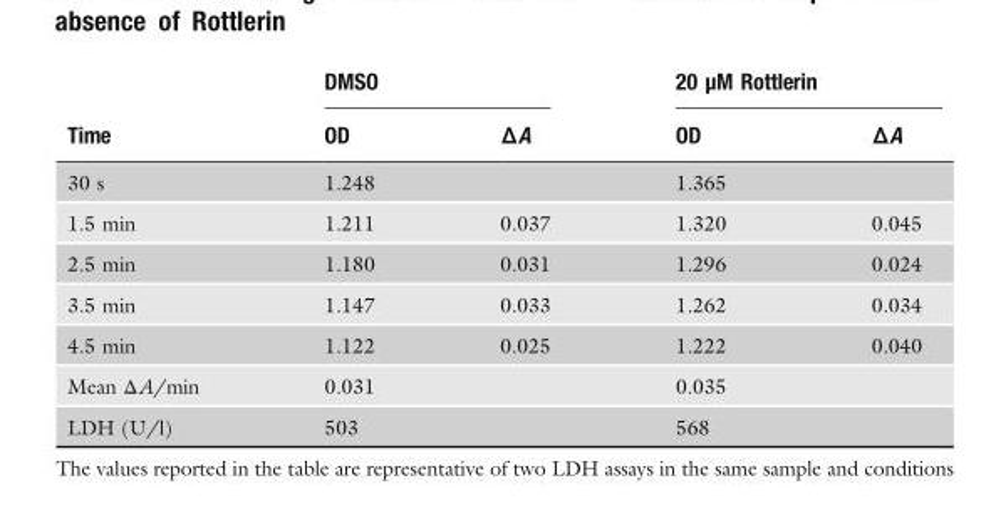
<table><thead><tr><td rowspan="2">Time</td><td colspan="2">DMSO</td><td colspan="2">20 μM Rottlerin</td></tr><tr><td>OD</td><td>ΔA</td><td>OD</td><td>ΔA</td></tr></thead><tbody><tr><td>30 s</td><td>1.248</td><td></td><td>1.365</td><td></td></tr><tr><td>1.5 min</td><td>1.211</td><td>0.037</td><td>1.320</td><td>0.045</td></tr><tr><td>2.5 min</td><td>1.180</td><td>0.031</td><td>1.296</td><td>0.024</td></tr><tr><td>3.5 min</td><td>1.147</td><td>0.033</td><td>1.262</td><td>0.034</td></tr><tr><td>4.5 min</td><td>1.122</td><td>0.025</td><td>1.222</td><td>0.040</td></tr><tr><td>Mean ΔA/min</td><td>0.031</td><td></td><td>0.035</td><td></td></tr><tr><td>LDH (U/l)</td><td>503</td><td></td><td>568</td><td></td></tr></tbody></table>